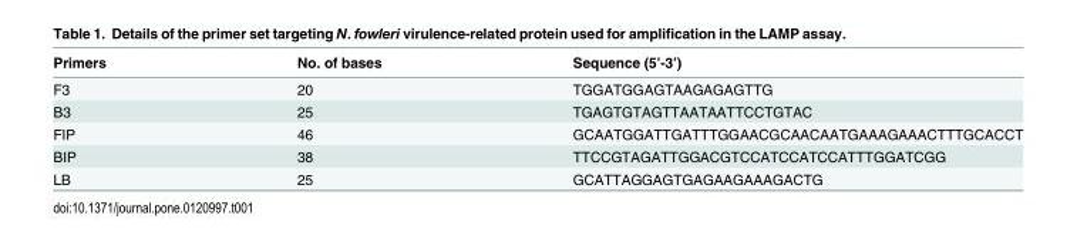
<table><thead><tr><td>Primers</td><td>No. of bases</td><td>Sequence (5’-3’)</td></tr></thead><tbody><tr><td>F3</td><td>20</td><td>TGGATGGAGTAAGAGAGTTG</td></tr><tr><td>B3</td><td>25</td><td>TGAGTGTAGTTAATAATTCCTGTAC</td></tr><tr><td>FIP</td><td>46</td><td>GCAATGGATTGATTTGGAACGCAACAATGAAAGAAACTTTGCACCT</td></tr><tr><td>BIP</td><td>38</td><td>TTCCGTAGATTGGACGTCCATCCATCCATTTGGATCGG</td></tr><tr><td>LB</td><td>25</td><td>GCATTAGGAGTGAGAAGAAAGACTG</td></tr></tbody></table>